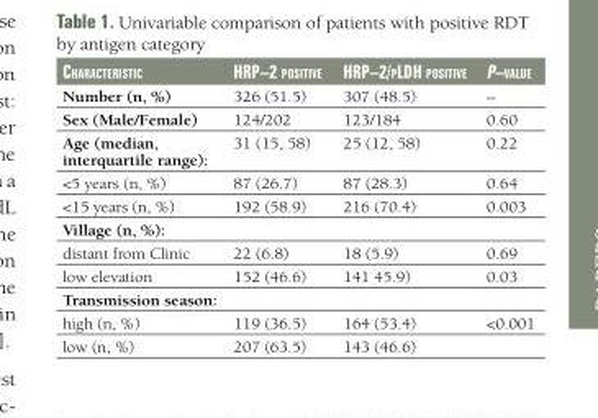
<table><thead><tr><td>CharaCteristiC</td><td>hrP–2 Positive</td><td>hrP–2/PLDh Positive</td><td>P–vaLue</td></tr></thead><tbody><tr><td>Number (n, %)</td><td>326 (51.5)</td><td>307 (48.5)</td><td>–</td></tr><tr><td>Sex (Male/Female)</td><td>124/202</td><td>123/184</td><td>0.60</td></tr><tr><td>Age (median, interquartile range):</td><td>31 (15, 58)</td><td>25 (12, 58)</td><td>0.22</td></tr><tr><td>&lt;5 years (n, %)</td><td>87 (26.7)</td><td>87 (28.3)</td><td>0.64</td></tr><tr><td>&lt;15 years (n, %)</td><td>192 (58.9)</td><td>216 (70.4)</td><td>0.003</td></tr><tr><td colspan="4">Village (n, %):</td></tr><tr><td>distant from Clinic</td><td>22 (6.8)</td><td>18 (5.9)</td><td>0.69</td></tr><tr><td>low elevation</td><td>152 (46.6)</td><td>141 45.9)</td><td>0.03</td></tr><tr><td colspan="4">Transmission season:</td></tr><tr><td>high (n, %)</td><td>119 (36.5)</td><td>164 (53.4)</td><td>&lt;0.001</td></tr><tr><td>low (n, %)</td><td>207 (63.5)</td><td>143 (46.6)</td><td></td></tr></tbody></table>